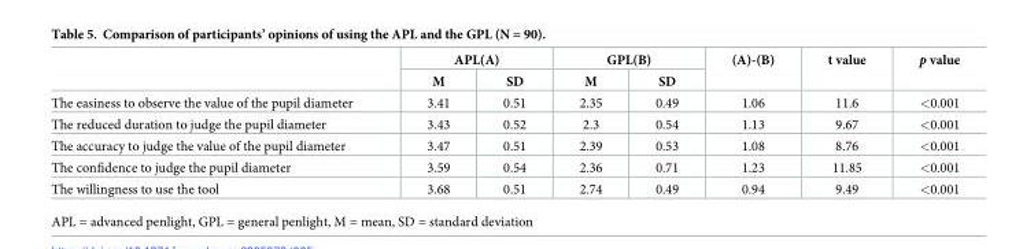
<table><thead><tr><td rowspan="2"></td><td colspan="2">APL(A)</td><td colspan="2">GPL(B)</td><td rowspan="2">(A)-(B)</td><td rowspan="2">t value</td><td rowspan="2">p value</td></tr><tr><td>M</td><td>SD</td><td>M</td><td>SD</td></tr></thead><tbody><tr><td>The easiness to observe the value of the pupil diameter</td><td>3.41</td><td>0.51</td><td>2.35</td><td>0.49</td><td>1.06</td><td>11.6</td><td>&lt;0.001</td></tr><tr><td>The reduced duration to judge the pupil diameter</td><td>3.43</td><td>0.52</td><td>2.3</td><td>0.54</td><td>1.13</td><td>9.67</td><td>&lt;0.001</td></tr><tr><td>The accuracy to judge the value of the pupil diameter</td><td>3.47</td><td>0.51</td><td>2.39</td><td>0.53</td><td>1.08</td><td>8.76</td><td>&lt;0.001</td></tr><tr><td>The confidence to judge the pupil diameter</td><td>3.59</td><td>0.54</td><td>2.36</td><td>0.71</td><td>1.23</td><td>11.85</td><td>&lt;0.001</td></tr><tr><td>The willingness to use the tool</td><td>3.68</td><td>0.51</td><td>2.74</td><td>0.49</td><td>0.94</td><td>9.49</td><td>&lt;0.001</td></tr></tbody></table>